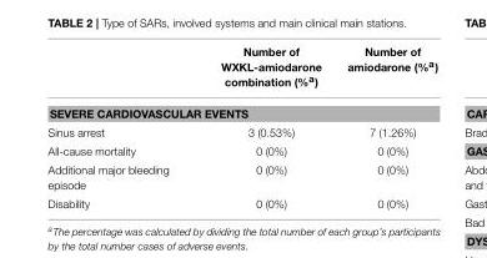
<table><thead><tr><td></td><td>Number of WXKL-amiodarone combination (%<sup>a</sup>)</td><td>Number of amiodarone (%<sup>a</sup>)</td></tr></thead><tbody><tr><td colspan="3">SEVERE CARDIOVASCULAR EVENTS</td></tr><tr><td>Sinus arrest</td><td>3 (0.53%)</td><td>7 (1.26%)</td></tr><tr><td>All-cause mortality</td><td>0 (0%)</td><td>0 (0%)</td></tr><tr><td>Additional major bleeding episode</td><td>0 (0%)</td><td>0 (0%)</td></tr><tr><td>Disability</td><td>0 (0%)</td><td>0 (0%)</td></tr></tbody></table>